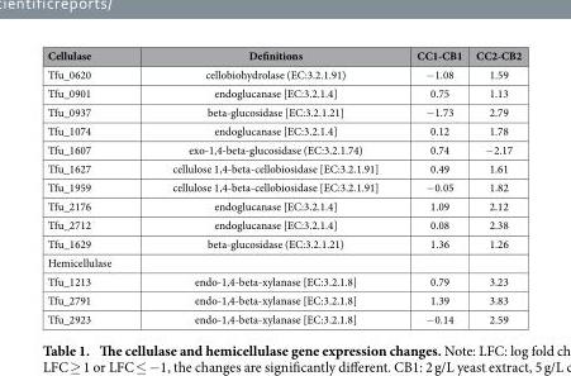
<table><thead><tr><td>Cellulase</td><td>Definitions</td><td>CC1-CB1</td><td>CC2-CB2</td></tr></thead><tbody><tr><td>Tfu_0620</td><td>cellobiohydrolase (EC:3.2.1.91)</td><td>− 1.08</td><td>1.59</td></tr><tr><td>Tfu_0901</td><td>endoglucanase [EC:3.2.1.4]</td><td>0.75</td><td>1.13</td></tr><tr><td>Tfu_0937</td><td>beta-glucosidase [EC:3.2.1.21]</td><td>− 1.73</td><td>2.79</td></tr><tr><td>Tfu_1074</td><td>endoglucanase [EC:3.2.1.4]</td><td>0.12</td><td>1.78</td></tr><tr><td>Tfu_1607</td><td>exo-1,4-beta-glucosidase (EC:3.2.1.74)</td><td>0.74</td><td>− 2.17</td></tr><tr><td>Tfu_1627</td><td>cellulose 1,4-beta-cellobiosidase [EC:3.2.1.91]</td><td>0.49</td><td>1.61</td></tr><tr><td>Tfu_1959</td><td>cellulose 1,4-beta-cellobiosidase [EC:3.2.1.91]</td><td>− 0.05</td><td>1.82</td></tr><tr><td>Tfu_2176</td><td>endoglucanase [EC:3.2.1.4]</td><td>1.09</td><td>2.12</td></tr><tr><td>Tfu_2712</td><td>endoglucanase [EC:3.2.1.4]</td><td>0.08</td><td>2.38</td></tr><tr><td>Tfu_1629</td><td>beta-glucosidase (EC:3.2.1.21)</td><td>1.36</td><td>1.26</td></tr><tr><td colspan="4">Hemicellulase</td></tr><tr><td>Tfu_1213</td><td>endo-1,4-beta-xylanase [EC:3.2.1.8]</td><td>0.79</td><td>3.23</td></tr><tr><td>Tfu_2791</td><td>endo-1,4-beta-xylanase [EC:3.2.1.8]</td><td>1.39</td><td>3.83</td></tr><tr><td>Tfu_2923</td><td>endo-1,4-beta-xylanase [EC:3.2.1.8]</td><td>− 0.14</td><td>2.59</td></tr></tbody></table>